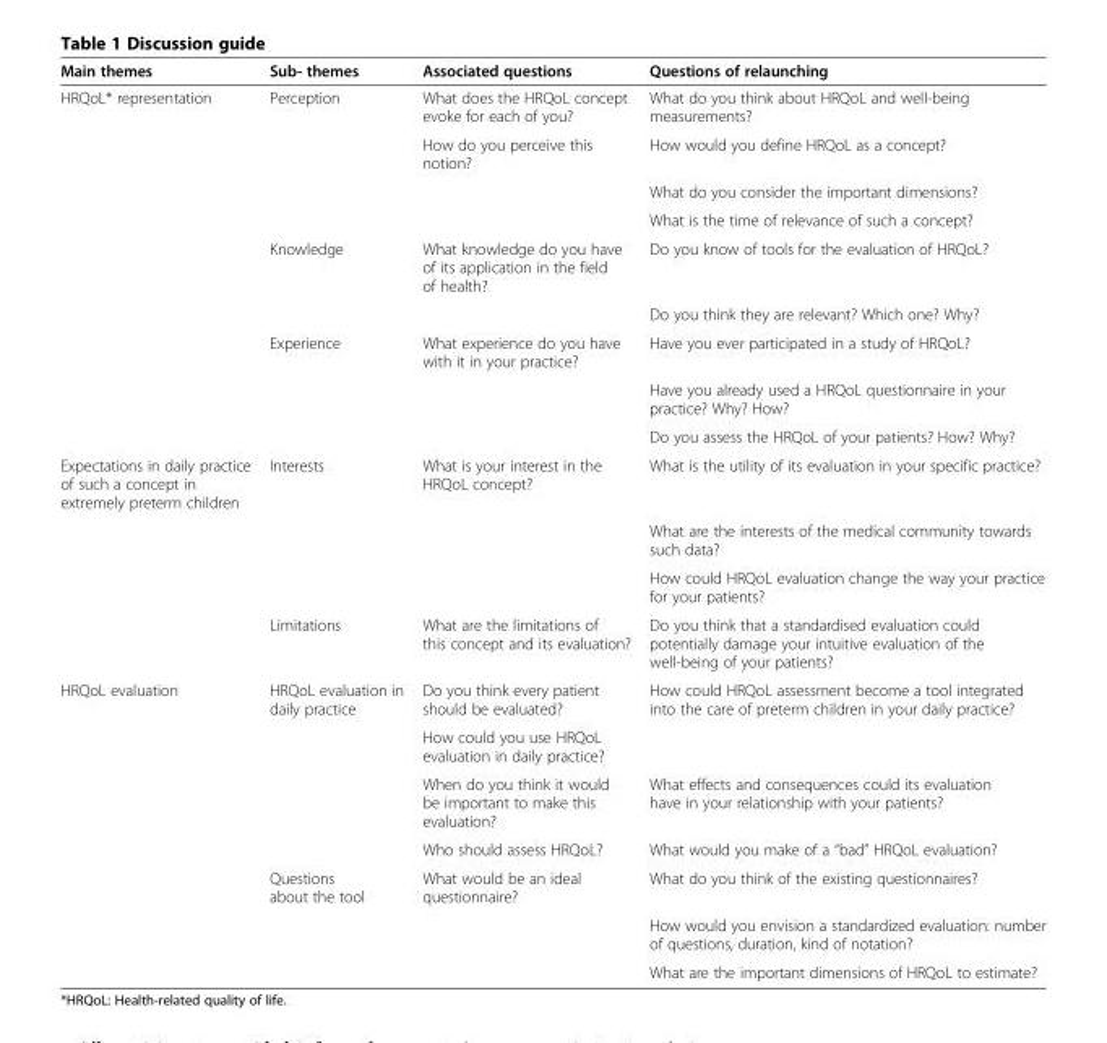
<table><thead><tr><td>Main themes</td><td>Sub- themes</td><td>Associated questions</td><td>Questions of relaunching</td></tr></thead><tbody><tr><td rowspan="9">HRQoL* representation</td><td>Perception</td><td>What does the HRQoL concept evoke for each of you?</td><td>What do you think about HRQoL and well-being measurements?</td></tr><tr><td></td><td>How do you perceive this notion?</td><td>How would you define HRQoL as a concept?</td></tr><tr><td></td><td></td><td>What do you consider the important dimensions?</td></tr><tr><td></td><td></td><td>What is the time of relevance of such a concept?</td></tr><tr><td>Knowledge</td><td>What knowledge do you have of its application in the field of health?</td><td>Do you know of tools for the evaluation of HRQoL?</td></tr><tr><td></td><td></td><td>Do you think they are relevant? Which one? Why?</td></tr><tr><td>Experience</td><td>What experience do you have with it in your practice?</td><td>Have you ever participated in a study of HRQoL?</td></tr><tr><td></td><td></td><td>Have you already used a HRQoL questionnaire in your practice? Why? How?</td></tr><tr><td></td><td></td><td>Do you assess the HRQoL of your patients? How? Why?</td></tr><tr><td rowspan="4">Expectations in daily practice of such a concept in extremely preterm children</td><td>Interests</td><td>What is your interest in the HRQoL concept?</td><td>What is the utility of its evaluation in your specific practice?</td></tr><tr><td></td><td></td><td>What are the interests of the medical community towards such data?</td></tr><tr><td></td><td></td><td>How could HRQoL evaluation change the way your practice for your patients?</td></tr><tr><td>Limitations</td><td>What are the limitations of this concept and its evaluation?</td><td>Do you think that a standardised evaluation could potentially damage your intuitive evaluation of the well-being of your patients?</td></tr><tr><td rowspan="7">HRQoL evaluation</td><td>HRQoL evaluation in daily practice</td><td>Do you think every patient should be evaluated?</td><td>How could HRQoL assessment become a tool integrated into the care of preterm children in your daily practice?</td></tr><tr><td></td><td>How could you use HRQoL evaluation in daily practice?</td><td></td></tr><tr><td></td><td>When do you think it would be important to make this evaluation?</td><td>What effects and consequences could its evaluation have in your relationship with your patients?</td></tr><tr><td></td><td>Who should assess HRQoL?</td><td>What would you make of a “bad” HRQoL evaluation?</td></tr><tr><td>Questions about the tool</td><td>What would be an ideal questionnaire?</td><td>What do you think of the existing questionnaires?</td></tr><tr><td></td><td></td><td>How would you envision a standardized evaluation: number of questions, duration, kind of notation?</td></tr><tr><td></td><td></td><td>What are the important dimensions of HRQoL to estimate?</td></tr></tbody></table>